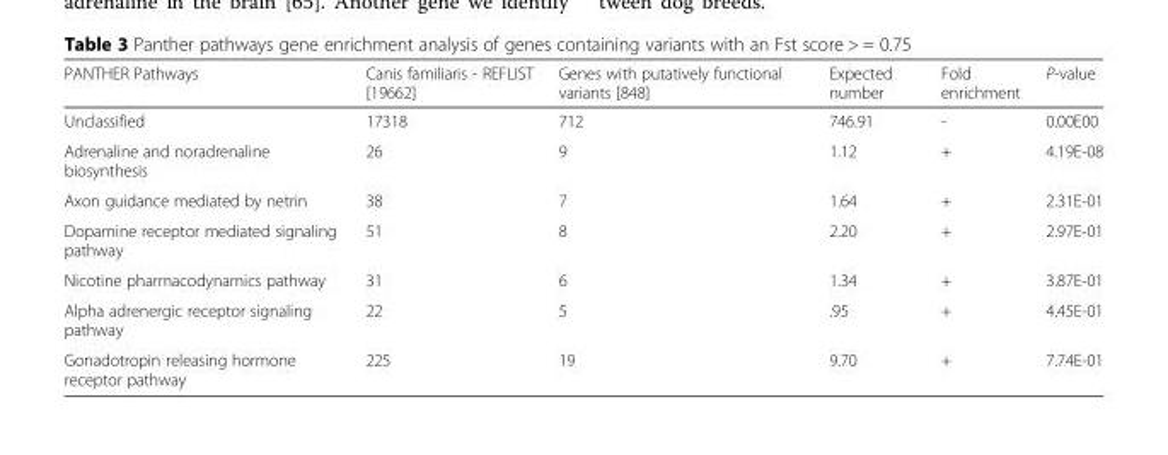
<table><thead><tr><td>PANTHER Pathways</td><td>Canis familiaris - REFLIST [19662]</td><td>Genes with putatively functional variants [848]</td><td>Expected number</td><td>Fold enrichment</td><td>P-value</td></tr></thead><tbody><tr><td>Unclassified</td><td>17318</td><td>712</td><td>746.91</td><td>-</td><td>0.00E00</td></tr><tr><td>Adrenaline and noradrenaline biosynthesis</td><td>26</td><td>9</td><td>1.12</td><td>+</td><td>4.19E-08</td></tr><tr><td>Axon guidance mediated by netrin</td><td>38</td><td>7</td><td>1.64</td><td>+</td><td>2.31E-01</td></tr><tr><td>Dopamine receptor mediated signaling pathway</td><td>51</td><td>8</td><td>2.20</td><td>+</td><td>2.97E-01</td></tr><tr><td>Nicotine pharmacodynamics pathway</td><td>31</td><td>6</td><td>1.34</td><td>+</td><td>3.87E-01</td></tr><tr><td>Alpha adrenergic receptor signaling pathway</td><td>22</td><td>5</td><td>.95</td><td>+</td><td>4.45E-01</td></tr><tr><td>Gonadotropin releasing hormone receptor pathway</td><td>225</td><td>19</td><td>9.70</td><td>+</td><td>7.74E-01</td></tr></tbody></table>